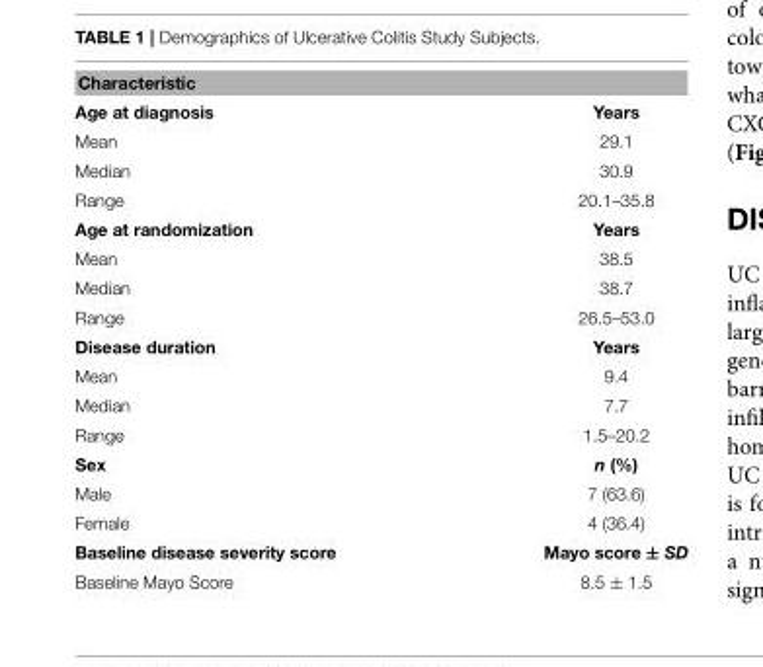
<table><tbody><tr><td colspan="2">Characteristic</td></tr><tr><td>Age at diagnosis</td><td>Years</td></tr><tr><td>Mean</td><td>29.1</td></tr><tr><td>Median</td><td>30.9</td></tr><tr><td>Range</td><td>20.1–35.8</td></tr><tr><td>Age at randomization</td><td>Years</td></tr><tr><td>Mean</td><td>38.5</td></tr><tr><td>Median</td><td>38.7</td></tr><tr><td>Range</td><td>26.5–53.0</td></tr><tr><td>Disease duration</td><td>Years</td></tr><tr><td>Mean</td><td>9.4</td></tr><tr><td>Median</td><td>7.7</td></tr><tr><td>Range</td><td>1.5–20.2</td></tr><tr><td>Sex</td><td>n (%)</td></tr><tr><td>Male</td><td>7 (63.6)</td></tr><tr><td>Female</td><td>4 (36.4)</td></tr><tr><td>Baseline disease severity score</td><td>Mayo score ± SD</td></tr><tr><td>Baseline Mayo Score</td><td>8.5 ± 1.5</td></tr></tbody></table>